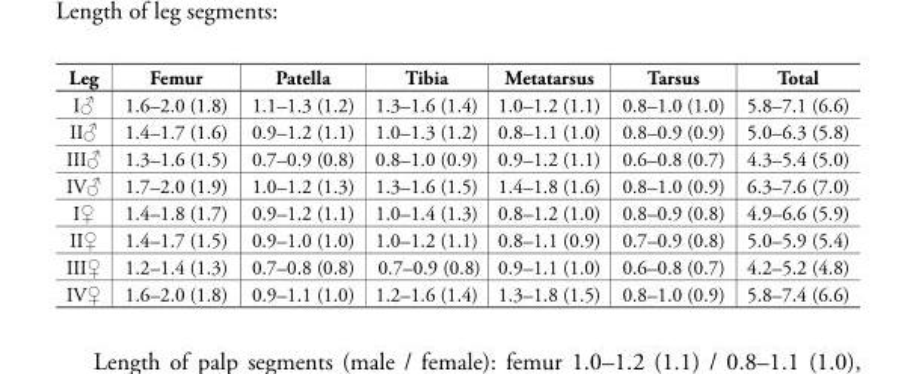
<table><thead><tr><td>Leg</td><td>Femur</td><td>Patella</td><td>Tibia</td><td>Metatarsus</td><td>Tarsus</td><td>Total</td></tr></thead><tbody><tr><td>I♂</td><td>1.6–2.0 (1.8)</td><td>1.1–1.3 (1.2)</td><td>1.3–1.6 (1.4)</td><td>1.0–1.2 (1.1)</td><td>0.8–1.0 (1.0)</td><td>5.8–7.1 (6.6)</td></tr><tr><td>II♂</td><td>1.4–1.7 (1.6)</td><td>0.9–1.2 (1.1)</td><td>1.0–1.3 (1.2)</td><td>0.8–1.1 (1.0)</td><td>0.8–0.9 (0.9)</td><td>5.0–6.3 (5.8)</td></tr><tr><td>III♂</td><td>1.3–1.6 (1.5)</td><td>0.7–0.9 (0.8)</td><td>0.8–1.0 (0.9)</td><td>0.9–1.2 (1.1)</td><td>0.6–0.8 (0.7)</td><td>4.3–5.4 (5.0)</td></tr><tr><td>IV♂</td><td>1.7–2.0 (1.9)</td><td>1.0–1.2 (1.3)</td><td>1.3–1.6 (1.5)</td><td>1.4–1.8 (1.6)</td><td>0.8–1.0 (0.9)</td><td>6.3–7.6 (7.0)</td></tr><tr><td>I♀</td><td>1.4–1.8 (1.7)</td><td>0.9–1.2 (1.1)</td><td>1.0–1.4 (1.3)</td><td>0.8–1.2 (1.0)</td><td>0.8–0.9 (0.8)</td><td>4.9–6.6 (5.9)</td></tr><tr><td>II♀</td><td>1.4–1.7 (1.5)</td><td>0.9–1.0 (1.0)</td><td>1.0–1.2 (1.1)</td><td>0.8–1.1 (0.9)</td><td>0.7–0.9 (0.8)</td><td>5.0–5.9 (5.4)</td></tr><tr><td>III♀</td><td>1.2–1.4 (1.3)</td><td>0.7–0.8 (0.8)</td><td>0.7–0.9 (0.8)</td><td>0.9–1.1 (1.0)</td><td>0.6–0.8 (0.7)</td><td>4.2–5.2 (4.8)</td></tr><tr><td>IV♀</td><td>1.6–2.0 (1.8)</td><td>0.9–1.1 (1.0)</td><td>1.2–1.6 (1.4)</td><td>1.3–1.8 (1.5)</td><td>0.8–1.0 (0.9)</td><td>5.8–7.4 (6.6)</td></tr></tbody></table>